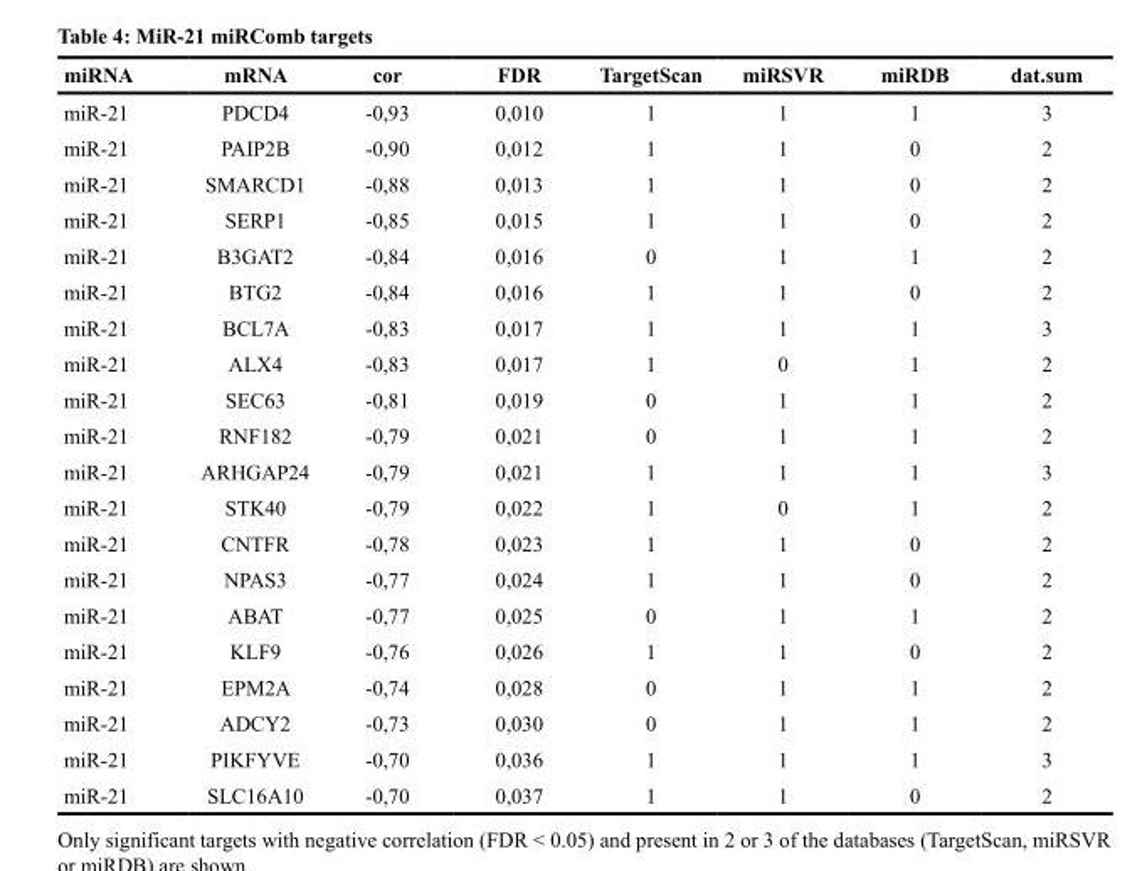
<table><thead><tr><td>miRNA</td><td>mRNA</td><td>cor</td><td>FDR</td><td>TargetScan</td><td>miRSVR</td><td>miRDB</td><td>dat.sum</td></tr></thead><tbody><tr><td>miR-21</td><td>PDCD4</td><td>-0,93</td><td>0,010</td><td>1</td><td>1</td><td>1</td><td>3</td></tr><tr><td>miR-21</td><td>PAIP2B</td><td>-0,90</td><td>0,012</td><td>1</td><td>1</td><td>0</td><td>2</td></tr><tr><td>miR-21</td><td>SMARCD1</td><td>-0,88</td><td>0,013</td><td>1</td><td>1</td><td>0</td><td>2</td></tr><tr><td>miR-21</td><td>SERP1</td><td>-0,85</td><td>0,015</td><td>1</td><td>1</td><td>0</td><td>2</td></tr><tr><td>miR-21</td><td>B3GAT2</td><td>-0,84</td><td>0,016</td><td>0</td><td>1</td><td>1</td><td>2</td></tr><tr><td>miR-21</td><td>BTG2</td><td>-0,84</td><td>0,016</td><td>1</td><td>1</td><td>0</td><td>2</td></tr><tr><td>miR-21</td><td>BCL7A</td><td>-0,83</td><td>0,017</td><td>1</td><td>1</td><td>1</td><td>3</td></tr><tr><td>miR-21</td><td>ALX4</td><td>-0,83</td><td>0,017</td><td>1</td><td>0</td><td>1</td><td>2</td></tr><tr><td>miR-21</td><td>SEC63</td><td>-0,81</td><td>0,019</td><td>0</td><td>1</td><td>1</td><td>2</td></tr><tr><td>miR-21</td><td>RNF182</td><td>-0,79</td><td>0,021</td><td>0</td><td>1</td><td>1</td><td>2</td></tr><tr><td>miR-21</td><td>ARHGAP24</td><td>-0,79</td><td>0,021</td><td>1</td><td>1</td><td>1</td><td>3</td></tr><tr><td>miR-21</td><td>STK40</td><td>-0,79</td><td>0,022</td><td>1</td><td>0</td><td>1</td><td>2</td></tr><tr><td>miR-21</td><td>CNTFR</td><td>-0,78</td><td>0,023</td><td>1</td><td>1</td><td>0</td><td>2</td></tr><tr><td>miR-21</td><td>NPAS3</td><td>-0,77</td><td>0,024</td><td>1</td><td>1</td><td>0</td><td>2</td></tr><tr><td>miR-21</td><td>ABAT</td><td>-0,77</td><td>0,025</td><td>0</td><td>1</td><td>1</td><td>2</td></tr><tr><td>miR-21</td><td>KLF9</td><td>-0,76</td><td>0,026</td><td>1</td><td>1</td><td>0</td><td>2</td></tr><tr><td>miR-21</td><td>EPM2A</td><td>-0,74</td><td>0,028</td><td>0</td><td>1</td><td>1</td><td>2</td></tr><tr><td>miR-21</td><td>ADCY2</td><td>-0,73</td><td>0,030</td><td>0</td><td>1</td><td>1</td><td>2</td></tr><tr><td>miR-21</td><td>PIKFYVE</td><td>-0,70</td><td>0,036</td><td>1</td><td>1</td><td>1</td><td>3</td></tr><tr><td>miR-21</td><td>SLC16A10</td><td>-0,70</td><td>0,037</td><td>1</td><td>1</td><td>0</td><td>2</td></tr></tbody></table>